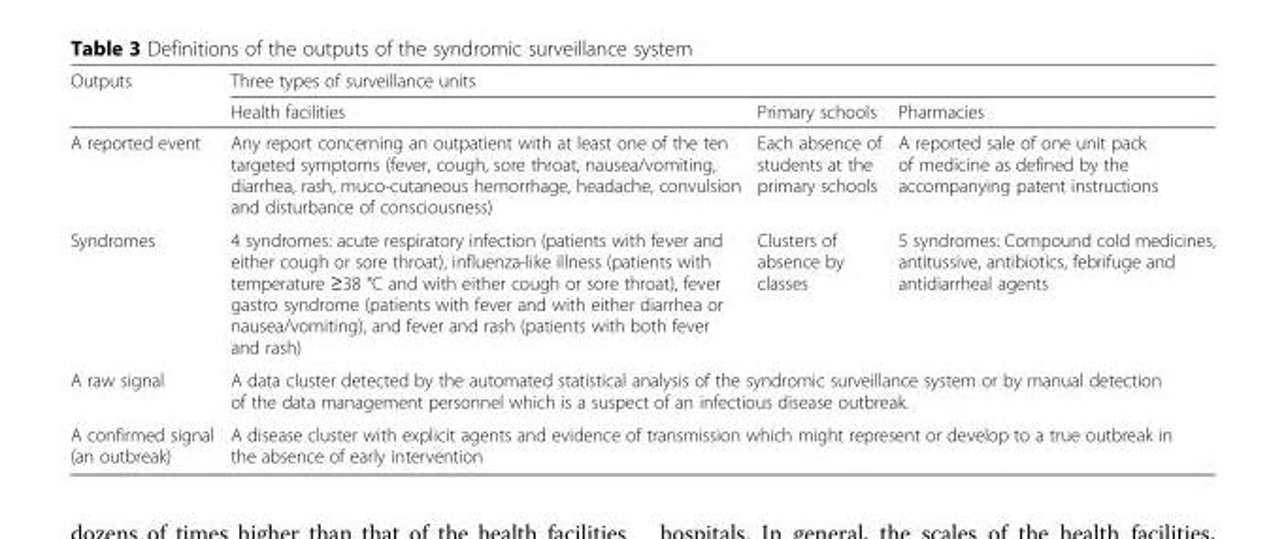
<table><thead><tr><td rowspan="2">Outputs</td><td colspan="3">Three types of surveillance units</td></tr><tr><td>Health facilities</td><td>Primary schools</td><td>Pharmacies</td></tr></thead><tbody><tr><td>A reported event</td><td>Any report concerning an outpatient with at least one of the ten targeted symptoms (fever, cough, sore throat, nausea/vomiting, diarrhea, rash, muco-cutaneous hemorrhage, headache, convulsion and disturbance of consciousness)</td><td>Each absence of students at the primary schools</td><td>A reported sale of one unit pack of medicine as defined by the accompanying patent instructions</td></tr><tr><td>Syndromes</td><td>4 syndromes: acute respiratory infection (patients with fever and either cough or sore throat), influenza-like illness (patients with temperature ≥38 °C and with either cough or sore throat), fever gastro syndrome (patients with fever and with either diarrhea or nausea/vomiting), and fever and rash (patients with both fever and rash)</td><td>Clusters of absence by classes</td><td>5 syndromes: Compound cold medicines, antitussive, antibiotics, febrifuge and antidiarrheal agents</td></tr><tr><td>A raw signal</td><td colspan="3">A data cluster detected by the automated statistical analysis of the syndromic surveillance system or by manual detection of the data management personnel which is a suspect of an infectious disease outbreak.</td></tr><tr><td>A confirmed signal (an outbreak)</td><td colspan="3">A disease cluster with explicit agents and evidence of transmission which might represent or develop to a true outbreak in the absence of early intervention</td></tr></tbody></table>